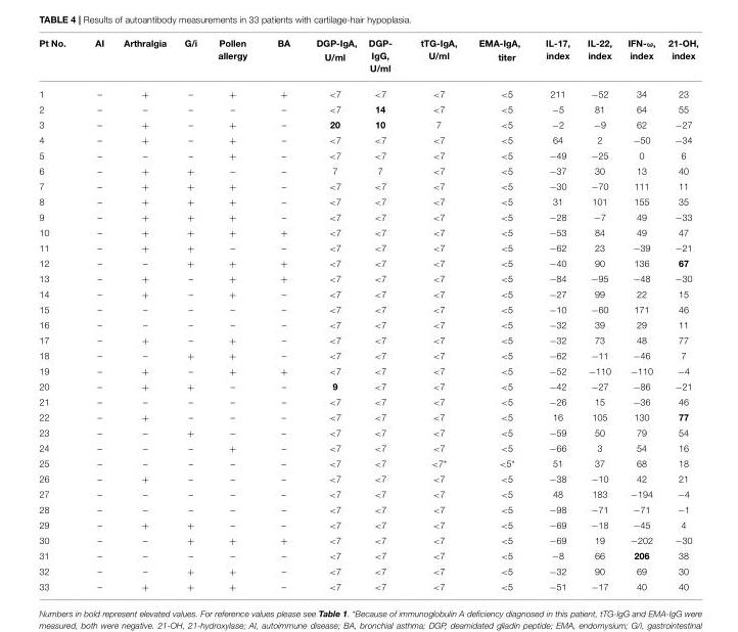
<table><thead><tr><td>Pt No.</td><td>AI</td><td>Arthralgia</td><td>G/i</td><td>Pollen allergy</td><td>BA</td><td>DGP-IgA, U/ml</td><td>DGP- IgG, U/ml</td><td>tTG-IgA, U/ml</td><td>EMA-IgA, titer</td><td>IL-17, index</td><td>IL-22, index</td><td>IFN-ω, index</td><td>21-OH, index</td></tr></thead><tbody><tr><td>1</td><td>–</td><td>+</td><td>–</td><td>+</td><td>+</td><td>&lt;7</td><td>&lt;7</td><td>&lt;7</td><td>&lt;5</td><td>211</td><td>−52</td><td>34</td><td>23</td></tr><tr><td>2</td><td>–</td><td>–</td><td>–</td><td>–</td><td>–</td><td>&lt;7</td><td>14</td><td>&lt;7</td><td>&lt;5</td><td>−5</td><td>81</td><td>64</td><td>55</td></tr><tr><td>3</td><td>–</td><td>+</td><td>–</td><td>+</td><td>–</td><td>20</td><td>10</td><td>7</td><td>&lt;5</td><td>−2</td><td>−9</td><td>62</td><td>−27</td></tr><tr><td>4</td><td>–</td><td>+</td><td>–</td><td>+</td><td>–</td><td>&lt;7</td><td>&lt;7</td><td>&lt;7</td><td>&lt;5</td><td>64</td><td>2</td><td>−50</td><td>−34</td></tr><tr><td>5</td><td>–</td><td>–</td><td>–</td><td>+</td><td>–</td><td>&lt;7</td><td>&lt;7</td><td>&lt;7</td><td>&lt;5</td><td>−49</td><td>−25</td><td>0</td><td>6</td></tr><tr><td>6</td><td>–</td><td>+</td><td>+</td><td>–</td><td>–</td><td>7</td><td>7</td><td>&lt;7</td><td>&lt;5</td><td>−37</td><td>30</td><td>13</td><td>40</td></tr><tr><td>7</td><td>–</td><td>+</td><td>+</td><td>+</td><td>–</td><td>&lt;7</td><td>&lt;7</td><td>&lt;7</td><td>&lt;5</td><td>−30</td><td>−70</td><td>111</td><td>11</td></tr><tr><td>8</td><td>–</td><td>+</td><td>+</td><td>+</td><td>–</td><td>&lt;7</td><td>&lt;7</td><td>&lt;7</td><td>&lt;5</td><td>31</td><td>101</td><td>155</td><td>35</td></tr><tr><td>9</td><td>–</td><td>+</td><td>+</td><td>+</td><td>–</td><td>&lt;7</td><td>&lt;7</td><td>&lt;7</td><td>&lt;5</td><td>−28</td><td>−7</td><td>49</td><td>−33</td></tr><tr><td>10</td><td>–</td><td>+</td><td>+</td><td>+</td><td>+</td><td>&lt;7</td><td>&lt;7</td><td>&lt;7</td><td>&lt;5</td><td>−53</td><td>84</td><td>49</td><td>47</td></tr><tr><td>11</td><td>–</td><td>+</td><td>+</td><td>–</td><td>–</td><td>&lt;7</td><td>&lt;7</td><td>&lt;7</td><td>&lt;5</td><td>−62</td><td>23</td><td>−39</td><td>−21</td></tr><tr><td>12</td><td>–</td><td>–</td><td>+</td><td>+</td><td>+</td><td>&lt;7</td><td>&lt;7</td><td>&lt;7</td><td>&lt;5</td><td>−40</td><td>90</td><td>136</td><td>67</td></tr><tr><td>13</td><td>–</td><td>+</td><td>–</td><td>+</td><td>+</td><td>&lt;7</td><td>&lt;7</td><td>&lt;7</td><td>&lt;5</td><td>−84</td><td>−95</td><td>−48</td><td>−30</td></tr><tr><td>14</td><td>–</td><td>+</td><td>–</td><td>+</td><td>–</td><td>&lt;7</td><td>&lt;7</td><td>&lt;7</td><td>&lt;5</td><td>−27</td><td>99</td><td>22</td><td>15</td></tr><tr><td>15</td><td>–</td><td>–</td><td>–</td><td>–</td><td>–</td><td>&lt;7</td><td>&lt;7</td><td>&lt;7</td><td>&lt;5</td><td>−10</td><td>−60</td><td>171</td><td>46</td></tr><tr><td>16</td><td>–</td><td>–</td><td>–</td><td>–</td><td>–</td><td>&lt;7</td><td>&lt;7</td><td>&lt;7</td><td>&lt;5</td><td>−32</td><td>39</td><td>29</td><td>11</td></tr><tr><td>17</td><td>–</td><td>+</td><td>–</td><td>+</td><td>–</td><td>&lt;7</td><td>&lt;7</td><td>&lt;7</td><td>&lt;5</td><td>−32</td><td>73</td><td>48</td><td>77</td></tr><tr><td>18</td><td>–</td><td>–</td><td>+</td><td>+</td><td>–</td><td>&lt;7</td><td>&lt;7</td><td>&lt;7</td><td>&lt;5</td><td>−62</td><td>−11</td><td>−46</td><td>7</td></tr><tr><td>19</td><td>–</td><td>+</td><td>–</td><td>+</td><td>+</td><td>&lt;7</td><td>&lt;7</td><td>&lt;7</td><td>&lt;5</td><td>−52</td><td>−110</td><td>−110</td><td>−4</td></tr><tr><td>20</td><td>–</td><td>+</td><td>+</td><td>–</td><td>–</td><td>9</td><td>&lt;7</td><td>&lt;7</td><td>&lt;5</td><td>−42</td><td>−27</td><td>−86</td><td>−21</td></tr><tr><td>21</td><td>–</td><td>–</td><td>–</td><td>–</td><td>–</td><td>&lt;7</td><td>&lt;7</td><td>&lt;7</td><td>&lt;5</td><td>−26</td><td>15</td><td>−36</td><td>46</td></tr><tr><td>22</td><td>–</td><td>+</td><td>–</td><td>–</td><td>–</td><td>&lt;7</td><td>&lt;7</td><td>&lt;7</td><td>&lt;5</td><td>16</td><td>105</td><td>130</td><td>77</td></tr><tr><td>23</td><td>–</td><td>–</td><td>+</td><td>–</td><td>–</td><td>&lt;7</td><td>&lt;7</td><td>&lt;7</td><td>&lt;5</td><td>−59</td><td>50</td><td>79</td><td>54</td></tr><tr><td>24</td><td>–</td><td>–</td><td>–</td><td>+</td><td>–</td><td>&lt;7</td><td>&lt;7</td><td>&lt;7</td><td>&lt;5</td><td>−66</td><td>3</td><td>54</td><td>16</td></tr><tr><td>25</td><td>–</td><td>–</td><td>–</td><td>–</td><td>–</td><td>&lt;7</td><td>&lt;7</td><td>&lt;7*</td><td>&lt;5*</td><td>51</td><td>37</td><td>68</td><td>18</td></tr><tr><td>26</td><td>–</td><td>+</td><td>–</td><td>–</td><td>–</td><td>&lt;7</td><td>&lt;7</td><td>&lt;7</td><td>&lt;5</td><td>−38</td><td>−10</td><td>42</td><td>21</td></tr><tr><td>27</td><td>–</td><td>–</td><td>–</td><td>–</td><td>–</td><td>&lt;7</td><td>&lt;7</td><td>&lt;7</td><td>&lt;5</td><td>48</td><td>183</td><td>−194</td><td>−4</td></tr><tr><td>28</td><td>–</td><td>–</td><td>–</td><td>–</td><td>–</td><td>&lt;7</td><td>&lt;7</td><td>&lt;7</td><td>&lt;5</td><td>−98</td><td>−71</td><td>−71</td><td>−1</td></tr><tr><td>29</td><td>–</td><td>+</td><td>+</td><td>–</td><td>–</td><td>&lt;7</td><td>&lt;7</td><td>&lt;7</td><td>&lt;5</td><td>−69</td><td>−18</td><td>−45</td><td>4</td></tr><tr><td>30</td><td>–</td><td>–</td><td>+</td><td>+</td><td>+</td><td>&lt;7</td><td>&lt;7</td><td>&lt;7</td><td>&lt;5</td><td>−69</td><td>19</td><td>−202</td><td>−30</td></tr><tr><td>31</td><td>–</td><td>–</td><td>–</td><td>–</td><td>–</td><td>&lt;7</td><td>&lt;7</td><td>&lt;7</td><td>&lt;5</td><td>−8</td><td>66</td><td>206</td><td>38</td></tr><tr><td>32</td><td>–</td><td>–</td><td>+</td><td>+</td><td>–</td><td>&lt;7</td><td>&lt;7</td><td>&lt;7</td><td>&lt;5</td><td>−32</td><td>90</td><td>69</td><td>30</td></tr><tr><td>33</td><td>–</td><td>+</td><td>+</td><td>+</td><td>–</td><td>&lt;7</td><td>&lt;7</td><td>&lt;7</td><td>&lt;5</td><td>−51</td><td>−17</td><td>40</td><td>40</td></tr></tbody></table>